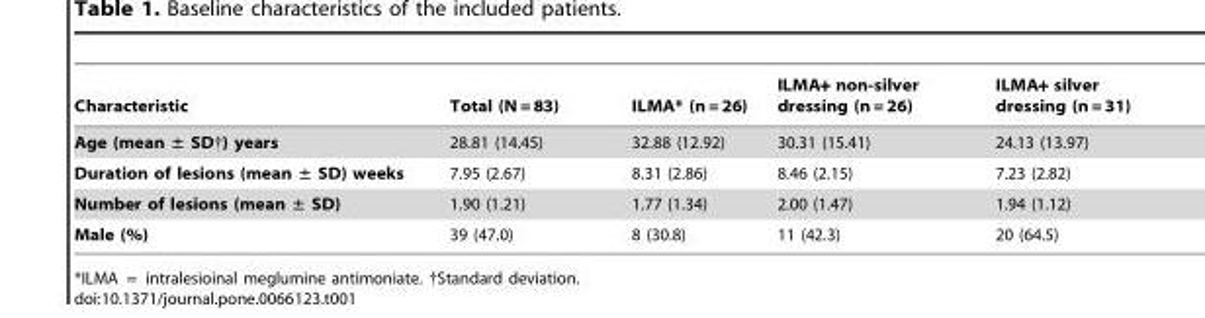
<table><thead><tr><td>Characteristic</td><td>Total (N = 83)</td><td>ILMA* (n = 26)</td><td>ILMA+ non-silver dressing (n = 26)</td><td>ILMA+ silver dressing (n = 31)</td></tr></thead><tbody><tr><td>Age (mean ± SD†) years</td><td>28.81 (14.45)</td><td>32.88 (12.92)</td><td>30.31 (15.41)</td><td>24.13 (13.97)</td></tr><tr><td>Duration of lesions (mean ± SD) weeks</td><td>7.95 (2.67)</td><td>8.31 (2.86)</td><td>8.46 (2.15)</td><td>7.23 (2.82)</td></tr><tr><td>Number of lesions (mean ± SD)</td><td>1.90 (1.21)</td><td>1.77 (1.34)</td><td>2.00 (1.47)</td><td>1.94 (1.12)</td></tr><tr><td>Male (%)</td><td>39 (47.0)</td><td>8 (30.8)</td><td>11 (42.3)</td><td>20 (64.5)</td></tr></tbody></table>